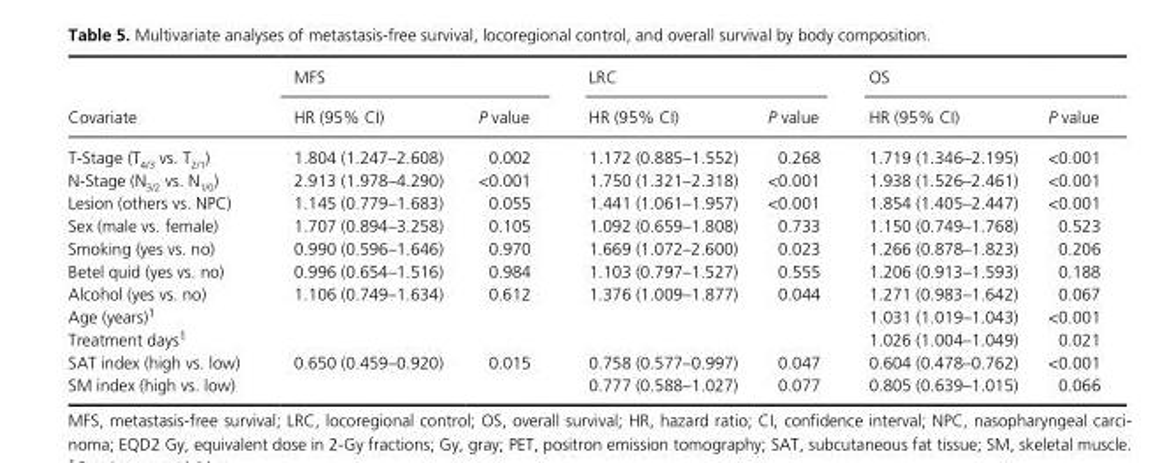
<table><thead><tr><td rowspan="2">Covariate</td><td colspan="2">MFS</td><td colspan="2">LRC</td><td colspan="2">OS</td></tr><tr><td>HR (95% CI)</td><td>P value</td><td>HR (95% CI)</td><td>P value</td><td>HR (95% CI)</td><td>P value</td></tr></thead><tbody><tr><td>T- Stage (T<sub>4/3</sub> vs. T<sub>2/1</sub>)</td><td>1.804 (1.247–2.608)</td><td>0.002</td><td>1.172 (0.885–1.552)</td><td>0.268</td><td>1.719 (1.346–2.195)</td><td>&lt;0.001</td></tr><tr><td>N- Stage (N<sub>3/2</sub> vs. N<sub>1/0</sub>)</td><td>2.913 (1.978–4.290)</td><td>&lt;0.001</td><td>1.750 (1.321–2.318)</td><td>&lt;0.001</td><td>1.938 (1.526–2.461)</td><td>&lt;0.001</td></tr><tr><td>Lesion (others vs. NPC)</td><td>1.145 (0.779–1.683)</td><td>0.055</td><td>1.441 (1.061–1.957)</td><td>&lt;0.001</td><td>1.854 (1.405–2.447)</td><td>&lt;0.001</td></tr><tr><td>Sex (male vs. female)</td><td>1.707 (0.894–3.258)</td><td>0.105</td><td>1.092 (0.659–1.808)</td><td>0.733</td><td>1.150 (0.749–1.768)</td><td>0.523</td></tr><tr><td>Smoking (yes vs. no)</td><td>0.990 (0.596–1.646)</td><td>0.970</td><td>1.669 (1.072–2.600)</td><td>0.023</td><td>1.266 (0.878–1.823)</td><td>0.206</td></tr><tr><td>Betel quid (yes vs. no)</td><td>0.996 (0.654–1.516)</td><td>0.984</td><td>1.103 (0.797–1.527)</td><td>0.555</td><td>1.206 (0.913–1.593)</td><td>0.188</td></tr><tr><td>Alcohol (yes vs. no)</td><td>1.106 (0.749–1.634)</td><td>0.612</td><td>1.376 (1.009–1.877)</td><td>0.044</td><td>1.271 (0.983–1.642)</td><td>0.067</td></tr><tr><td>Age (years)1</td><td></td><td></td><td></td><td></td><td>1.031 (1.019–1.043)</td><td>&lt;0.001</td></tr><tr><td>Treatment days1</td><td></td><td></td><td></td><td></td><td>1.026 (1.004–1.049)</td><td>0.021</td></tr><tr><td>SAT index (high vs. low)</td><td>0.650 (0.459–0.920)</td><td>0.015</td><td>0.758 (0.577–0.997)</td><td>0.047</td><td>0.604 (0.478–0.762)</td><td>&lt;0.001</td></tr><tr><td>SM index (high vs. low)</td><td></td><td></td><td>0.777 (0.588–1.027)</td><td>0.077</td><td>0.805 (0.639–1.015)</td><td>0.066</td></tr></tbody></table>